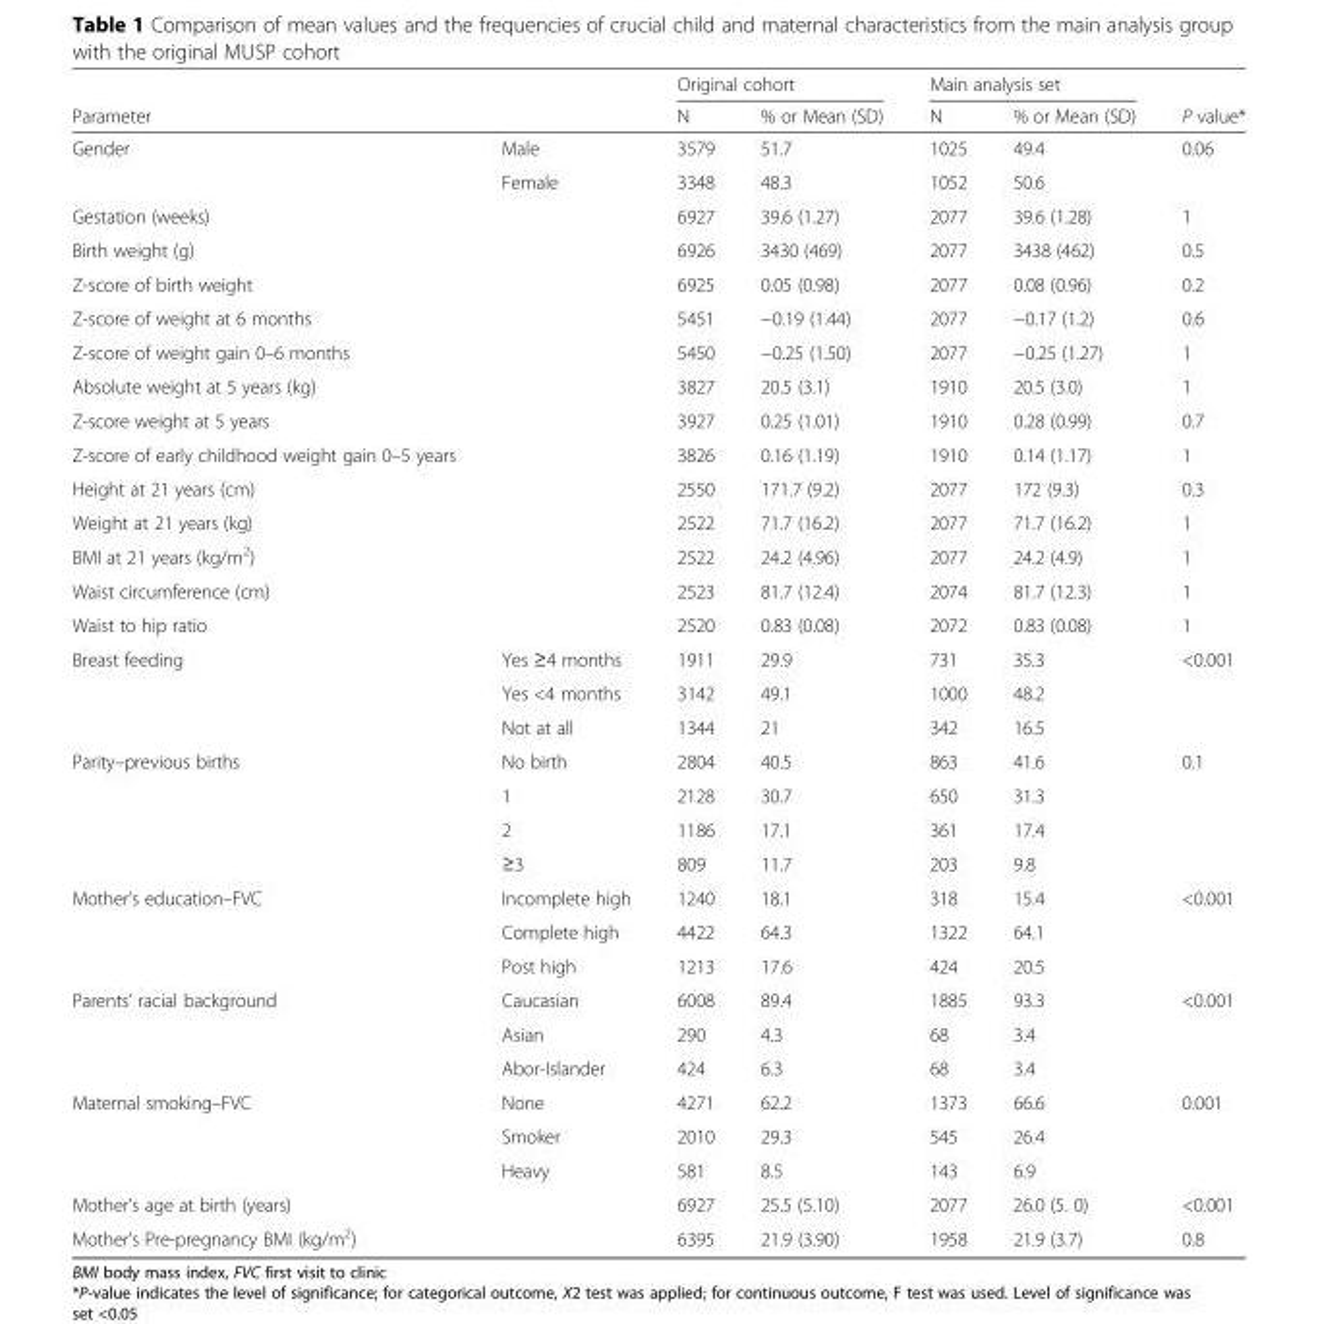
<table><thead><tr><td rowspan="2">Parameter</td><td rowspan="2"></td><td colspan="2">Original cohort</td><td colspan="2">Main analysis set</td><td rowspan="2">P value*</td></tr><tr><td>N</td><td>% or Mean (SD)</td><td>N</td><td>% or Mean (SD)</td></tr></thead><tbody><tr><td rowspan="2">Gender</td><td>Male</td><td>3579</td><td>51.7</td><td>1025</td><td>49.4</td><td rowspan="2">0.06</td></tr><tr><td>Female</td><td>3348</td><td>48.3</td><td>1052</td><td>50.6</td></tr><tr><td>Gestation (weeks)</td><td></td><td>6927</td><td>39.6 (1.27)</td><td>2077</td><td>39.6 (1.28)</td><td>1</td></tr><tr><td>Birth weight (g)</td><td></td><td>6926</td><td>3430 (469)</td><td>2077</td><td>3438 (462)</td><td>0.5</td></tr><tr><td>Z-score of birth weight</td><td></td><td>6925</td><td>0.05 (0.98)</td><td>2077</td><td>0.08 (0.96)</td><td>0.2</td></tr><tr><td>Z-score of weight at 6 months</td><td></td><td>5451</td><td>−0.19 (1.44)</td><td>2077</td><td>−0.17 (1.2)</td><td>0.6</td></tr><tr><td>Z-score of weight gain 0–6 months</td><td></td><td>5450</td><td>−0.25 (1.50)</td><td>2077</td><td>−0.25 (1.27)</td><td>1</td></tr><tr><td>Absolute weight at 5 years (kg)</td><td></td><td>3827</td><td>20.5 (3.1)</td><td>1910</td><td>20.5 (3.0)</td><td>1</td></tr><tr><td>Z-score weight at 5 years</td><td></td><td>3927</td><td>0.25 (1.01)</td><td>1910</td><td>0.28 (0.99)</td><td>0.7</td></tr><tr><td>Z-score of early childhood weight gain 0–5 years</td><td></td><td>3826</td><td>0.16 (1.19)</td><td>1910</td><td>0.14 (1.17)</td><td>1</td></tr><tr><td>Height at 21 years (cm)</td><td></td><td>2550</td><td>171.7 (9.2)</td><td>2077</td><td>172 (9.3)</td><td>0.3</td></tr><tr><td>Weight at 21 years (kg)</td><td></td><td>2522</td><td>71.7 (16.2)</td><td>2077</td><td>71.7 (16.2)</td><td>1</td></tr><tr><td>BMI at 21 years (kg/m<sup>2</sup>)</td><td></td><td>2522</td><td>24.2 (4.96)</td><td>2077</td><td>24.2 (4.9)</td><td>1</td></tr><tr><td>Waist circumference (cm)</td><td></td><td>2523</td><td>81.7 (12.4)</td><td>2074</td><td>81.7 (12.3)</td><td>1</td></tr><tr><td>Waist to hip ratio</td><td></td><td>2520</td><td>0.83 (0.08)</td><td>2072</td><td>0.83 (0.08)</td><td>1</td></tr><tr><td rowspan="3">Breast feeding</td><td>Yes ≥4 months</td><td>1911</td><td>29.9</td><td>731</td><td>35.3</td><td rowspan="3">&lt;0.001</td></tr><tr><td>Yes &lt;4 months</td><td>3142</td><td>49.1</td><td>1000</td><td>48.2</td></tr><tr><td>Not at all</td><td>1344</td><td>21</td><td>342</td><td>16.5</td></tr><tr><td rowspan="4">Parity–previous births</td><td>No birth</td><td>2804</td><td>40.5</td><td>863</td><td>41.6</td><td rowspan="4">0.1</td></tr><tr><td>1</td><td>2128</td><td>30.7</td><td>650</td><td>31.3</td></tr><tr><td>2</td><td>1186</td><td>17.1</td><td>361</td><td>17.4</td></tr><tr><td>≥3</td><td>809</td><td>11.7</td><td>203</td><td>9.8</td></tr><tr><td rowspan="3">Mother’s education–FVC</td><td>Incomplete high</td><td>1240</td><td>18.1</td><td>318</td><td>15.4</td><td rowspan="3">&lt;0.001</td></tr><tr><td>Complete high</td><td>4422</td><td>64.3</td><td>1322</td><td>64.1</td></tr><tr><td>Post high</td><td>1213</td><td>17.6</td><td>424</td><td>20.5</td></tr><tr><td rowspan="3">Parents’ racial background</td><td>Caucasian</td><td>6008</td><td>89.4</td><td>1885</td><td>93.3</td><td rowspan="3">&lt;0.001</td></tr><tr><td>Asian</td><td>290</td><td>4.3</td><td>68</td><td>3.4</td></tr><tr><td>Abor-Islander</td><td>424</td><td>6.3</td><td>68</td><td>3.4</td></tr><tr><td rowspan="3">Maternal smoking–FVC</td><td>None</td><td>4271</td><td>62.2</td><td>1373</td><td>66.6</td><td rowspan="3">0.001</td></tr><tr><td>Smoker</td><td>2010</td><td>29.3</td><td>545</td><td>26.4</td></tr><tr><td>Heavy</td><td>581</td><td>8.5</td><td>143</td><td>6.9</td></tr><tr><td>Mother’s age at birth (years)</td><td></td><td>6927</td><td>25.5 (5.10)</td><td>2077</td><td>26.0 (5. 0)</td><td>&lt;0.001</td></tr><tr><td>Mother’s Pre-pregnancy BMI (kg/m<sup>2</sup>)</td><td></td><td>6395</td><td>21.9 (3.90)</td><td>1958</td><td>21.9 (3.7)</td><td>0.8</td></tr></tbody></table>